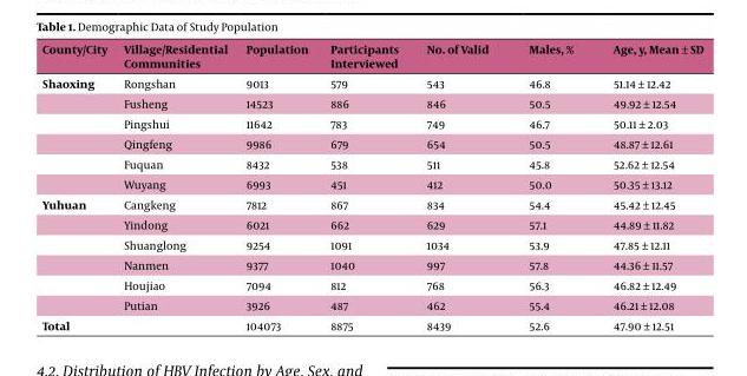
<table><thead><tr><td>County/City</td><td>Village/Residential Communities</td><td>Population</td><td>Participants Interviewed</td><td>No. of Valid</td><td>Males, %</td><td>Age, y, Mean ± SD</td></tr></thead><tbody><tr><td rowspan="6">Shaoxing</td><td>Rongshan</td><td>9013</td><td>579</td><td>543</td><td>46.8</td><td>51.14 ± 12.42</td></tr><tr><td>Fusheng</td><td>14523</td><td>886</td><td>846</td><td>50.5</td><td>49.92 ± 12.54</td></tr><tr><td>Pingshui</td><td>11642</td><td>783</td><td>749</td><td>46.7</td><td>50.11 ± 2.03</td></tr><tr><td>Qingfeng</td><td>9986</td><td>679</td><td>654</td><td>50.5</td><td>48.87 ± 12.61</td></tr><tr><td>Fuquan</td><td>8432</td><td>538</td><td>511</td><td>45.8</td><td>52.62 ± 12.54</td></tr><tr><td>Wuyang</td><td>6993</td><td>451</td><td>412</td><td>50.0</td><td>50.35 ± 13.12</td></tr><tr><td rowspan="6">Yuhuan</td><td>Cangkeng</td><td>7812</td><td>867</td><td>834</td><td>54.4</td><td>45.42 ± 12.45</td></tr><tr><td>Yindong</td><td>6021</td><td>662</td><td>629</td><td>57.1</td><td>44.89 ± 11.82</td></tr><tr><td>Shuanglong</td><td>9254</td><td>1091</td><td>1034</td><td>53.9</td><td>47.85 ± 12.11</td></tr><tr><td>Nanmen</td><td>9377</td><td>1040</td><td>997</td><td>57.8</td><td>44.36 ± 11.57</td></tr><tr><td>Houjiao</td><td>7094</td><td>812</td><td>768</td><td>56.3</td><td>46.82 ± 12.49</td></tr><tr><td>Putian</td><td>3926</td><td>487</td><td>462</td><td>55.4</td><td>46.21 ± 12.08</td></tr><tr><td>Total</td><td></td><td>104073</td><td>8875</td><td>8439</td><td>52.6</td><td>47.90 ± 12.51</td></tr></tbody></table>